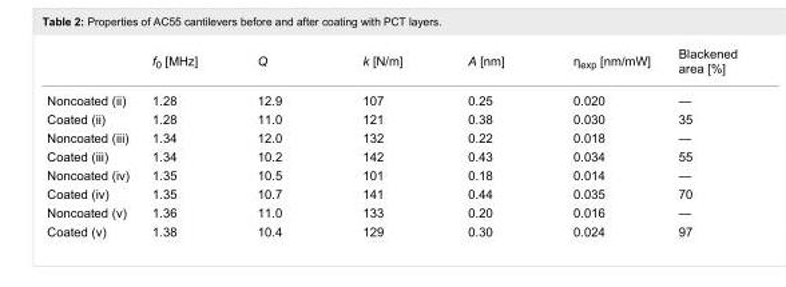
<table><thead><tr><td></td><td>f<sub>0</sub> [MHz]</td><td>Q</td><td>k [N/m]</td><td>A [nm]</td><td>η<sub>exp</sub> [nm/mW]</td><td>Blackened area [%]</td></tr></thead><tbody><tr><td>Noncoated (ii)</td><td>1.28</td><td>12.9</td><td>107</td><td>0.25</td><td>0.020</td><td>—</td></tr><tr><td>Coated (ii)</td><td>1.28</td><td>11.0</td><td>121</td><td>0.38</td><td>0.030</td><td>35</td></tr><tr><td>Noncoated (iii)</td><td>1.34</td><td>12.0</td><td>132</td><td>0.22</td><td>0.018</td><td>—</td></tr><tr><td>Coated (iii)</td><td>1.34</td><td>10.2</td><td>142</td><td>0.43</td><td>0.034</td><td>55</td></tr><tr><td>Noncoated (iv)</td><td>1.35</td><td>10.5</td><td>101</td><td>0.18</td><td>0.014</td><td>—</td></tr><tr><td>Coated (iv)</td><td>1.35</td><td>10.7</td><td>141</td><td>0.44</td><td>0.035</td><td>70</td></tr><tr><td>Noncoated (v)</td><td>1.36</td><td>11.0</td><td>133</td><td>0.20</td><td>0.016</td><td>—</td></tr><tr><td>Coated (v)</td><td>1.38</td><td>10.4</td><td>129</td><td>0.30</td><td>0.024</td><td>97</td></tr></tbody></table>